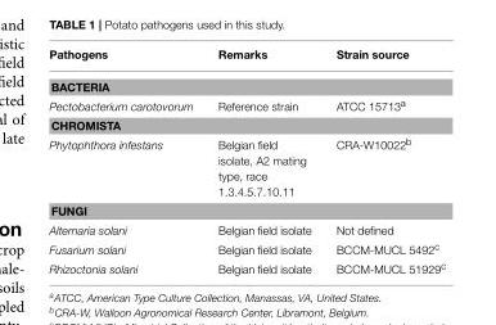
<table><thead><tr><td>Pathogens</td><td>Remarks</td><td>Strain source</td></tr></thead><tbody><tr><td colspan="3">BACTERIA</td></tr><tr><td>Pectobacterium carotovorum</td><td>Reference strain</td><td>ATCC 15713<sup>a</sup></td></tr><tr><td colspan="3">CHROMISTA</td></tr><tr><td>Phytophthora infestans</td><td>Belgian field isolate, A2 mating type, race 1.3.4.5.7.10.11</td><td>CRA-W10022<sup>b</sup></td></tr><tr><td colspan="3">FUNGI</td></tr><tr><td>Alternaria solani</td><td>Belgian field isolate</td><td>Not defined</td></tr><tr><td>Fusarium solani</td><td>Belgian field isolate</td><td>BCCM-MUCL 5492<sup>c</sup></td></tr><tr><td>Rhizoctonia solani</td><td>Belgian field isolate</td><td>BCCM-MUCL 51929<sup>c</sup></td></tr></tbody></table>